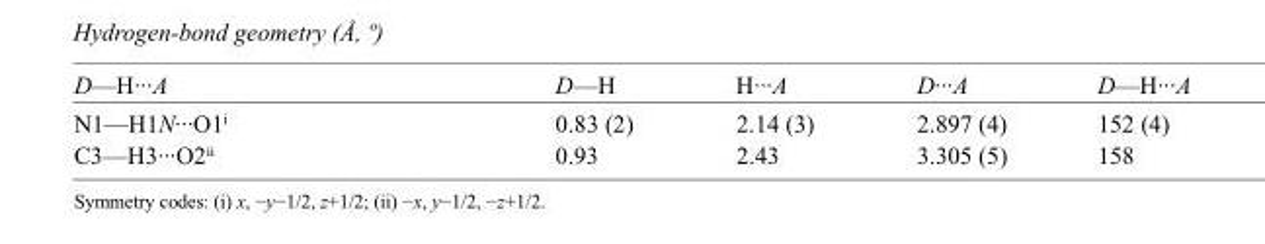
<table><tbody><tr><td>D—H···A</td><td>D—H</td><td>H···A</td><td>D···A</td><td>D—H···A</td></tr><tr><td>N1—H1N···O1<sup>i</sup></td><td>0.83 (2)</td><td>2.14 (3)</td><td>2.897 (4)</td><td>152 (4)</td></tr><tr><td>C3—H3···O2<sup>ii</sup></td><td>0.93</td><td>2.43</td><td>3.305 (5)</td><td>158</td></tr></tbody></table>